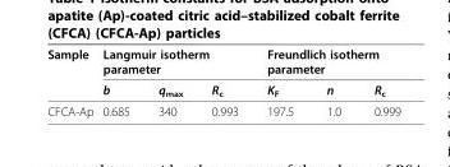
<table><thead><tr><td rowspan="2">Sample</td><td colspan="3">Langmuir isotherm parameter</td><td colspan="3">Freundlich isotherm parameter</td></tr><tr><td>b</td><td>q<sub>max</sub></td><td>R<sub>c</sub></td><td>K<sub>F</sub></td><td>n</td><td>R<sub>c</sub></td></tr></thead><tbody><tr><td>CFCA-Ap</td><td>0.685</td><td>340</td><td>0.993</td><td>197.5</td><td>1.0</td><td>0.999</td></tr></tbody></table>